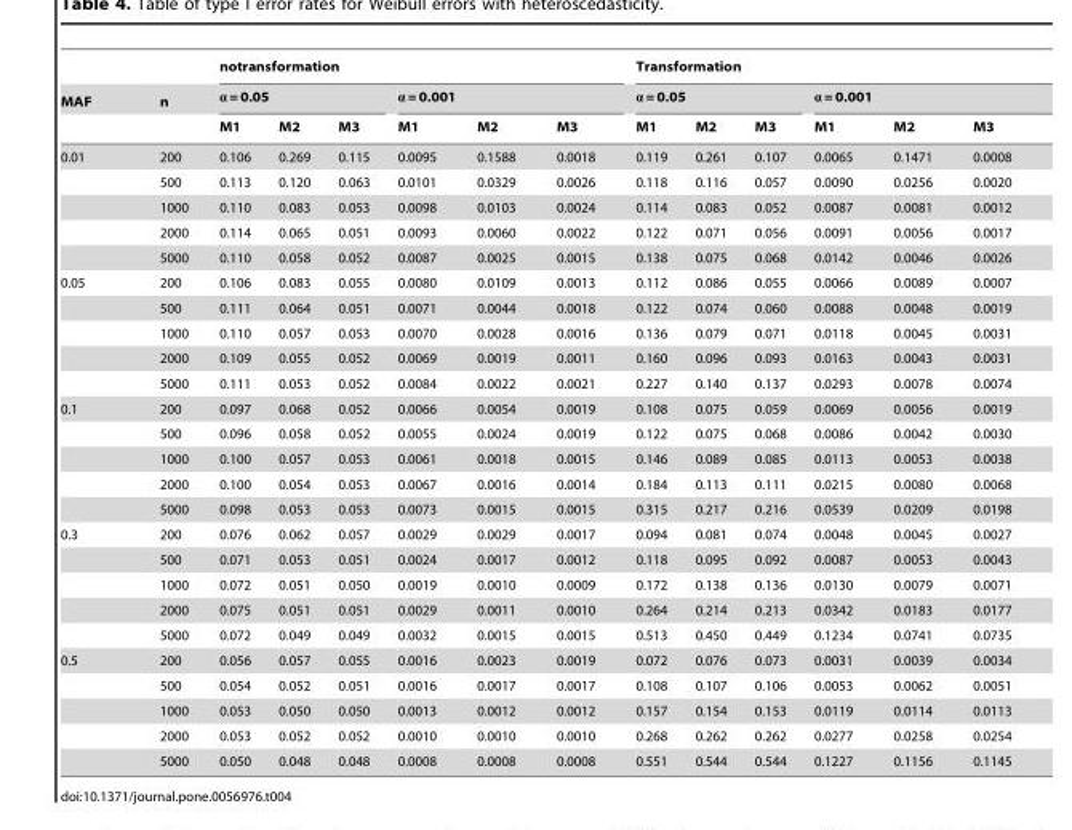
<table><thead><tr><td rowspan="3">MAF</td><td rowspan="3">n</td><td colspan="6">notransformation</td><td colspan="6">Transformation</td></tr><tr><td colspan="3">α = 0.05</td><td colspan="3">α = 0.001</td><td colspan="3">α = 0.05</td><td colspan="3">α = 0.001</td></tr><tr><td>M1</td><td>M2</td><td>M3</td><td>M1</td><td>M2</td><td>M3</td><td>M1</td><td>M2</td><td>M3</td><td>M1</td><td>M2</td><td>M3</td></tr></thead><tbody><tr><td rowspan="5">0.01</td><td>200</td><td>0.106</td><td>0.269</td><td>0.115</td><td>0.0095</td><td>0.1588</td><td>0.0018</td><td>0.119</td><td>0.261</td><td>0.107</td><td>0.0065</td><td>0.1471</td><td>0.0008</td></tr><tr><td>500</td><td>0.113</td><td>0.120</td><td>0.063</td><td>0.0101</td><td>0.0329</td><td>0.0026</td><td>0.118</td><td>0.116</td><td>0.057</td><td>0.0090</td><td>0.0256</td><td>0.0020</td></tr><tr><td>1000</td><td>0.110</td><td>0.083</td><td>0.053</td><td>0.0098</td><td>0.0103</td><td>0.0024</td><td>0.114</td><td>0.083</td><td>0.052</td><td>0.0087</td><td>0.0081</td><td>0.0012</td></tr><tr><td>2000</td><td>0.114</td><td>0.065</td><td>0.051</td><td>0.0093</td><td>0.0060</td><td>0.0022</td><td>0.122</td><td>0.071</td><td>0.056</td><td>0.0091</td><td>0.0056</td><td>0.0017</td></tr><tr><td>5000</td><td>0.110</td><td>0.058</td><td>0.052</td><td>0.0087</td><td>0.0025</td><td>0.0015</td><td>0.138</td><td>0.075</td><td>0.068</td><td>0.0142</td><td>0.0046</td><td>0.0026</td></tr><tr><td rowspan="5">0.05</td><td>200</td><td>0.106</td><td>0.083</td><td>0.055</td><td>0.0080</td><td>0.0109</td><td>0.0013</td><td>0.112</td><td>0.086</td><td>0.055</td><td>0.0066</td><td>0.0089</td><td>0.0007</td></tr><tr><td>500</td><td>0.111</td><td>0.064</td><td>0.051</td><td>0.0071</td><td>0.0044</td><td>0.0018</td><td>0.122</td><td>0.074</td><td>0.060</td><td>0.0088</td><td>0.0048</td><td>0.0019</td></tr><tr><td>1000</td><td>0.110</td><td>0.057</td><td>0.053</td><td>0.0070</td><td>0.0028</td><td>0.0016</td><td>0.136</td><td>0.079</td><td>0.071</td><td>0.0118</td><td>0.0045</td><td>0.0031</td></tr><tr><td>2000</td><td>0.109</td><td>0.055</td><td>0.052</td><td>0.0069</td><td>0.0019</td><td>0.0011</td><td>0.160</td><td>0.096</td><td>0.093</td><td>0.0163</td><td>0.0043</td><td>0.0031</td></tr><tr><td>5000</td><td>0.111</td><td>0.053</td><td>0.052</td><td>0.0084</td><td>0.0022</td><td>0.0021</td><td>0.227</td><td>0.140</td><td>0.137</td><td>0.0293</td><td>0.0078</td><td>0.0074</td></tr><tr><td rowspan="5">0.1</td><td>200</td><td>0.097</td><td>0.068</td><td>0.052</td><td>0.0066</td><td>0.0054</td><td>0.0019</td><td>0.108</td><td>0.075</td><td>0.059</td><td>0.0069</td><td>0.0056</td><td>0.0019</td></tr><tr><td>500</td><td>0.096</td><td>0.058</td><td>0.052</td><td>0.0055</td><td>0.0024</td><td>0.0019</td><td>0.122</td><td>0.075</td><td>0.068</td><td>0.0086</td><td>0.0042</td><td>0.0030</td></tr><tr><td>1000</td><td>0.100</td><td>0.057</td><td>0.053</td><td>0.0061</td><td>0.0018</td><td>0.0015</td><td>0.146</td><td>0.089</td><td>0.085</td><td>0.0113</td><td>0.0053</td><td>0.0038</td></tr><tr><td>2000</td><td>0.100</td><td>0.054</td><td>0.053</td><td>0.0067</td><td>0.0016</td><td>0.0014</td><td>0.184</td><td>0.113</td><td>0.111</td><td>0.0215</td><td>0.0080</td><td>0.0068</td></tr><tr><td>5000</td><td>0.098</td><td>0.053</td><td>0.053</td><td>0.0073</td><td>0.0015</td><td>0.0015</td><td>0.315</td><td>0.217</td><td>0.216</td><td>0.0539</td><td>0.0209</td><td>0.0198</td></tr><tr><td rowspan="5">0.3</td><td>200</td><td>0.076</td><td>0.062</td><td>0.057</td><td>0.0029</td><td>0.0029</td><td>0.0017</td><td>0.094</td><td>0.081</td><td>0.074</td><td>0.0048</td><td>0.0045</td><td>0.0027</td></tr><tr><td>500</td><td>0.071</td><td>0.053</td><td>0.051</td><td>0.0024</td><td>0.0017</td><td>0.0012</td><td>0.118</td><td>0.095</td><td>0.092</td><td>0.0087</td><td>0.0053</td><td>0.0043</td></tr><tr><td>1000</td><td>0.072</td><td>0.051</td><td>0.050</td><td>0.0019</td><td>0.0010</td><td>0.0009</td><td>0.172</td><td>0.138</td><td>0.136</td><td>0.0130</td><td>0.0079</td><td>0.0071</td></tr><tr><td>2000</td><td>0.075</td><td>0.051</td><td>0.051</td><td>0.0029</td><td>0.0011</td><td>0.0010</td><td>0.264</td><td>0.214</td><td>0.213</td><td>0.0342</td><td>0.0183</td><td>0.0177</td></tr><tr><td>5000</td><td>0.072</td><td>0.049</td><td>0.049</td><td>0.0032</td><td>0.0015</td><td>0.0015</td><td>0.513</td><td>0.450</td><td>0.449</td><td>0.1234</td><td>0.0741</td><td>0.0735</td></tr><tr><td rowspan="5">0.5</td><td>200</td><td>0.056</td><td>0.057</td><td>0.055</td><td>0.0016</td><td>0.0023</td><td>0.0019</td><td>0.072</td><td>0.076</td><td>0.073</td><td>0.0031</td><td>0.0039</td><td>0.0034</td></tr><tr><td>500</td><td>0.054</td><td>0.052</td><td>0.051</td><td>0.0016</td><td>0.0017</td><td>0.0017</td><td>0.108</td><td>0.107</td><td>0.106</td><td>0.0053</td><td>0.0062</td><td>0.0051</td></tr><tr><td>1000</td><td>0.053</td><td>0.050</td><td>0.050</td><td>0.0013</td><td>0.0012</td><td>0.0012</td><td>0.157</td><td>0.154</td><td>0.153</td><td>0.0119</td><td>0.0114</td><td>0.0113</td></tr><tr><td>2000</td><td>0.053</td><td>0.052</td><td>0.052</td><td>0.0010</td><td>0.0010</td><td>0.0010</td><td>0.268</td><td>0.262</td><td>0.262</td><td>0.0277</td><td>0.0258</td><td>0.0254</td></tr><tr><td>5000</td><td>0.050</td><td>0.048</td><td>0.048</td><td>0.0008</td><td>0.0008</td><td>0.0008</td><td>0.551</td><td>0.544</td><td>0.544</td><td>0.1227</td><td>0.1156</td><td>0.1145</td></tr></tbody></table>